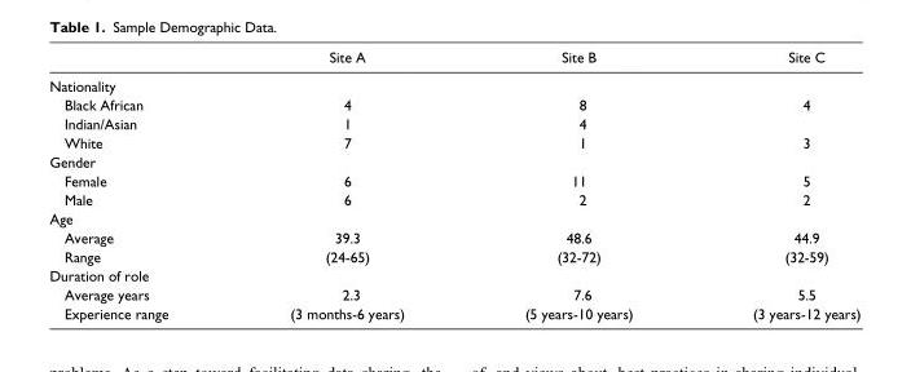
<table><thead><tr><td></td><td>Site A</td><td>Site B</td><td>Site C</td></tr></thead><tbody><tr><td colspan="4">Nationality</td></tr><tr><td>Black African</td><td>4</td><td>8</td><td>4</td></tr><tr><td>Indian/Asian</td><td>1</td><td>4</td><td></td></tr><tr><td>White</td><td>7</td><td>1</td><td>3</td></tr><tr><td colspan="4">Gender</td></tr><tr><td>Female</td><td>6</td><td>11</td><td>5</td></tr><tr><td>Male</td><td>6</td><td>2</td><td>2</td></tr><tr><td colspan="4">Age</td></tr><tr><td>Average</td><td>39.3</td><td>48.6</td><td>44.9</td></tr><tr><td>Range</td><td>(24-65)</td><td>(32-72)</td><td>(32-59)</td></tr><tr><td colspan="4">Duration of role</td></tr><tr><td>Average years</td><td>2.3</td><td>7.6</td><td>5.5</td></tr><tr><td>Experience range</td><td>(3 months-6 years)</td><td>(5 years-10 years)</td><td>(3 years-12 years)</td></tr></tbody></table>